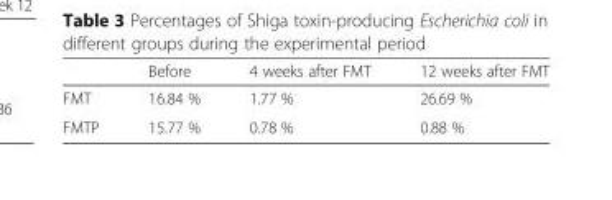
<table><thead><tr><td></td><td>Before</td><td>4 weeks after FMT</td><td>12 weeks after FMT</td></tr></thead><tbody><tr><td>FMT</td><td>16.84 %</td><td>1.77 %</td><td>26.69 %</td></tr><tr><td>FMTP</td><td>15.77 %</td><td>0.78 %</td><td>0.88 %</td></tr></tbody></table>